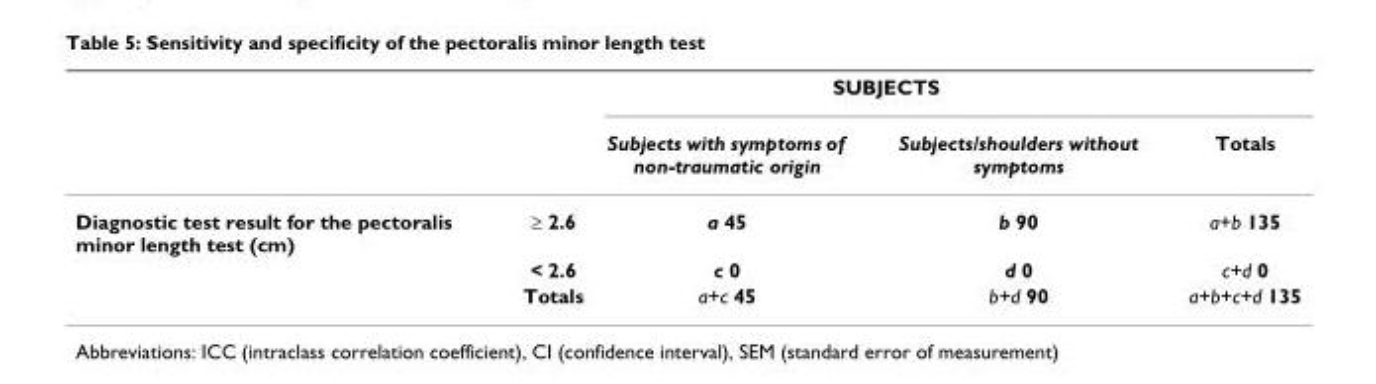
<table><thead><tr><td rowspan="2"></td><td rowspan="2"></td><td colspan="2">SUBJECTS</td><td rowspan="2">Totals</td></tr><tr><td>Subjects with symptoms of non-traumatic origin</td><td>Subjects/shoulders without symptoms</td></tr></thead><tbody><tr><td rowspan="3">Diagnostic test result for the pectoralis minor length test (cm)</td><td>≥ 2.6</td><td>a 45</td><td>b 90</td><td>a+b 135</td></tr><tr><td>&lt; 2.6</td><td>c 0</td><td>d 0</td><td>c+d 0</td></tr><tr><td>Totals</td><td>a+c 45</td><td>b+d 90</td><td>a+b+c+d 135</td></tr></tbody></table>